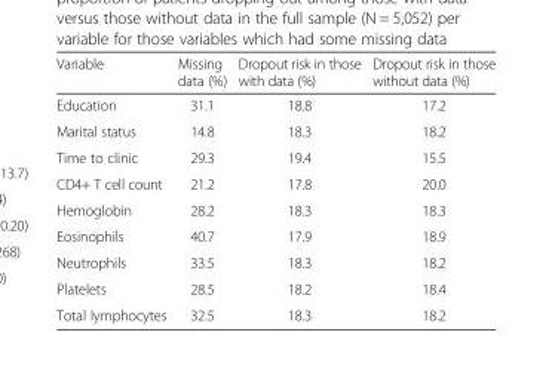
<table><thead><tr><td>Variable</td><td>Missing data (%)</td><td>Dropout risk in those with data (%)</td><td>Dropout risk in those without data (%)</td></tr></thead><tbody><tr><td>Education</td><td>31.1</td><td>18.8</td><td>17.2</td></tr><tr><td>Marital status</td><td>14.8</td><td>18.3</td><td>18.2</td></tr><tr><td>Time to clinic</td><td>29.3</td><td>19.4</td><td>15.5</td></tr><tr><td>CD4+ T cell count</td><td>21.2</td><td>17.8</td><td>20.0</td></tr><tr><td>Hemoglobin</td><td>28.2</td><td>18.3</td><td>18.3</td></tr><tr><td>Eosinophils</td><td>40.7</td><td>17.9</td><td>18.9</td></tr><tr><td>Neutrophils</td><td>33.5</td><td>18.3</td><td>18.2</td></tr><tr><td>Platelets</td><td>28.5</td><td>18.2</td><td>18.4</td></tr><tr><td>Total lymphocytes</td><td>32.5</td><td>18.3</td><td>18.2</td></tr></tbody></table>